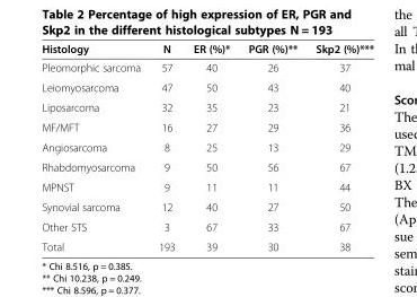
<table><thead><tr><td>Histology</td><td>N</td><td>ER (%)*</td><td>PGR (%)**</td><td>Skp2 (%)***</td></tr></thead><tbody><tr><td>Pleomorphic sarcoma</td><td>57</td><td>40</td><td>26</td><td>37</td></tr><tr><td>Leiomyosarcoma</td><td>47</td><td>50</td><td>43</td><td>40</td></tr><tr><td>Liposarcoma</td><td>32</td><td>35</td><td>23</td><td>21</td></tr><tr><td>MF/MFT</td><td>16</td><td>27</td><td>29</td><td>36</td></tr><tr><td>Angiosarcoma</td><td>8</td><td>25</td><td>13</td><td>29</td></tr><tr><td>Rhabdomyosarcoma</td><td>9</td><td>50</td><td>56</td><td>67</td></tr><tr><td>MPNST</td><td>9</td><td>11</td><td>11</td><td>44</td></tr><tr><td>Synovial sarcoma</td><td>12</td><td>40</td><td>27</td><td>50</td></tr><tr><td>Other STS</td><td>3</td><td>67</td><td>33</td><td>67</td></tr><tr><td>Total</td><td>193</td><td>39</td><td>30</td><td>38</td></tr></tbody></table>